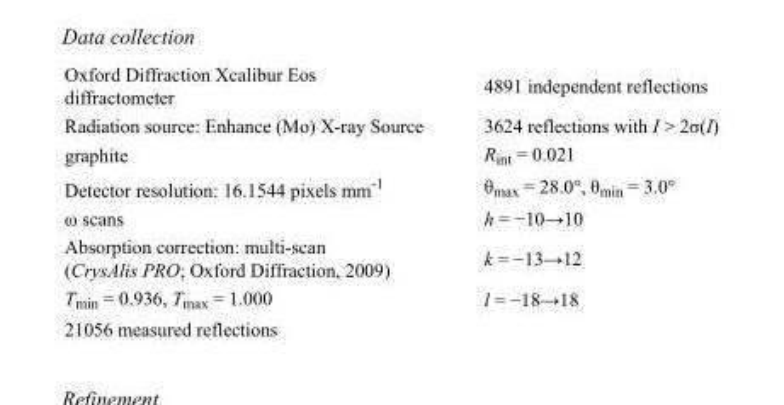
<table><tbody><tr><td>Oxford Diffraction Xcalibur Eos diffractometer</td><td>4891 independent reflections</td></tr><tr><td>Radiation source: Enhance (Mo) X-ray Source</td><td>3624 reflections with I &gt; 2σ(I)</td></tr><tr><td>graphite</td><td>R<sub>int</sub> = 0.021</td></tr><tr><td>Detector resolution: 16.1544 pixels mm<sup>-1</sup></td><td>θ<sub>max</sub> = 28.0°, θ<sub>min</sub> = 3.0°</td></tr><tr><td>ω scans</td><td>h = −10→10</td></tr><tr><td>Absorption correction: multi-scan (CrysAlis PRO; Oxford Diffraction, 2009)</td><td>k = −13→12</td></tr><tr><td>T<sub>min</sub> = 0.936, T<sub>max</sub> = 1.000</td><td>l = −18→18</td></tr><tr><td>21056 measured reflections</td><td></td></tr></tbody></table>